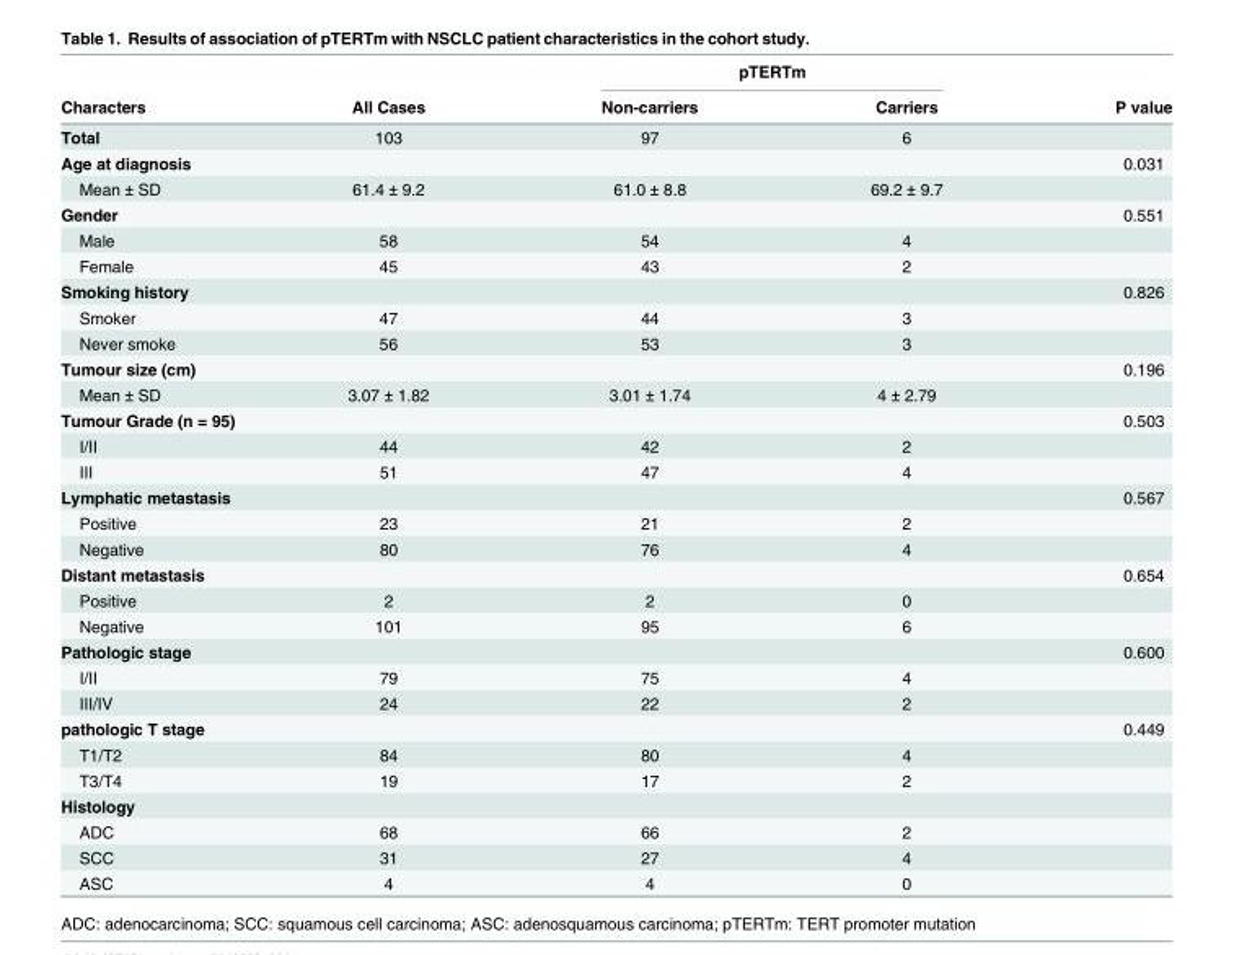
<table><thead><tr><td rowspan="2">Characters</td><td rowspan="2">All Cases</td><td colspan="2">pTERTm</td><td rowspan="2">P value</td></tr><tr><td>Non-carriers</td><td>Carriers</td></tr></thead><tbody><tr><td>Total</td><td>103</td><td>97</td><td>6</td><td></td></tr><tr><td colspan="2">Age at diagnosis</td><td></td><td></td><td>0.031</td></tr><tr><td>Mean ± SD</td><td>61.4 ± 9.2</td><td>61.0 ± 8.8</td><td>69.2 ± 9.7</td><td></td></tr><tr><td>Gender</td><td></td><td></td><td></td><td>0.551</td></tr><tr><td>Male</td><td>58</td><td>54</td><td>4</td><td></td></tr><tr><td>Female</td><td>45</td><td>43</td><td>2</td><td></td></tr><tr><td colspan="2">Smoking history</td><td></td><td></td><td>0.826</td></tr><tr><td>Smoker</td><td>47</td><td>44</td><td>3</td><td></td></tr><tr><td>Never smoke</td><td>56</td><td>53</td><td>3</td><td></td></tr><tr><td colspan="2">Tumour size (cm)</td><td></td><td></td><td>0.196</td></tr><tr><td>Mean ± SD</td><td>3.07 ± 1.82</td><td>3.01 ± 1.74</td><td>4 ± 2.79</td><td></td></tr><tr><td colspan="2">Tumour Grade (n = 95)</td><td></td><td></td><td>0.503</td></tr><tr><td>I/II</td><td>44</td><td>42</td><td>2</td><td></td></tr><tr><td>III</td><td>51</td><td>47</td><td>4</td><td></td></tr><tr><td colspan="2">Lymphatic metastasis</td><td></td><td></td><td>0.567</td></tr><tr><td>Positive</td><td>23</td><td>21</td><td>2</td><td></td></tr><tr><td>Negative</td><td>80</td><td>76</td><td>4</td><td></td></tr><tr><td colspan="2">Distant metastasis</td><td></td><td></td><td>0.654</td></tr><tr><td>Positive</td><td>2</td><td>2</td><td>0</td><td></td></tr><tr><td>Negative</td><td>101</td><td>95</td><td>6</td><td></td></tr><tr><td colspan="2">Pathologic stage</td><td></td><td></td><td>0.600</td></tr><tr><td>I/II</td><td>79</td><td>75</td><td>4</td><td></td></tr><tr><td>III/IV</td><td>24</td><td>22</td><td>2</td><td></td></tr><tr><td colspan="2">pathologic T stage</td><td></td><td></td><td>0.449</td></tr><tr><td>T1/T2</td><td>84</td><td>80</td><td>4</td><td></td></tr><tr><td>T3/T4</td><td>19</td><td>17</td><td>2</td><td></td></tr><tr><td colspan="5">Histology</td></tr><tr><td>ADC</td><td>68</td><td>66</td><td>2</td><td></td></tr><tr><td>SCC</td><td>31</td><td>27</td><td>4</td><td></td></tr><tr><td>ASC</td><td>4</td><td>4</td><td>0</td><td></td></tr></tbody></table>